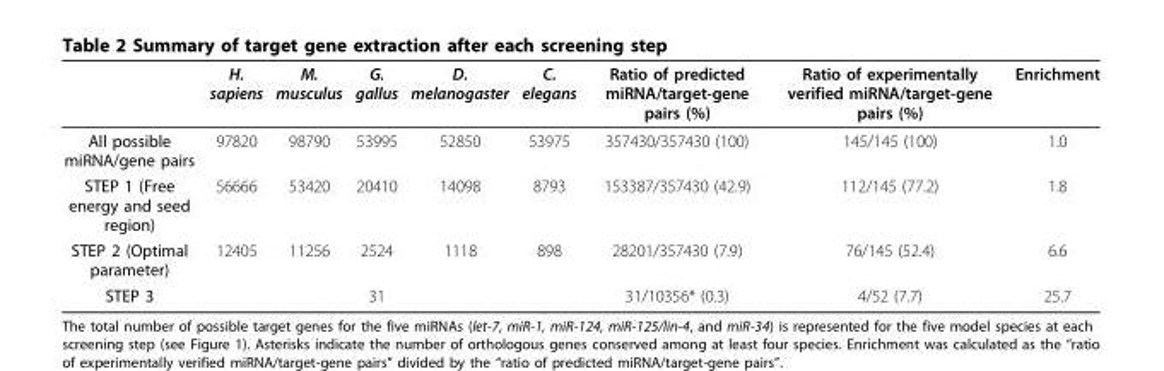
<table><thead><tr><td></td><td>H. sapiens</td><td>M. musculus</td><td>G. gallus</td><td>D. melanogaster</td><td>C. elegans</td><td>Ratio of predicted miRNA/target-gene pairs (%)</td><td>Ratio of experimentally verified miRNA/target-gene pairs (%)</td><td>Enrichment</td></tr></thead><tbody><tr><td>All possible miRNA/gene pairs</td><td>97820</td><td>98790</td><td>53995</td><td>52850</td><td>53975</td><td>357430/357430 (100)</td><td>145/145 (100)</td><td>1.0</td></tr><tr><td>STEP 1 (Free energy and seed region)</td><td>56666</td><td>53420</td><td>20410</td><td>14098</td><td>8793</td><td>153387/357430 (42.9)</td><td>112/145 (77.2)</td><td>1.8</td></tr><tr><td>STEP 2 (Optimal parameter)</td><td>12405</td><td>11256</td><td>2524</td><td>1118</td><td>898</td><td>28201/357430 (7.9)</td><td>76/145 (52.4)</td><td>6.6</td></tr><tr><td>STEP 3</td><td colspan="2"></td><td>31</td><td colspan="2"></td><td>31/10356* (0.3)</td><td>4/52 (7.7)</td><td>25.7</td></tr></tbody></table>